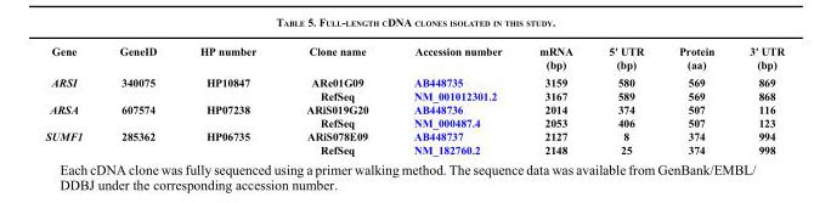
<table><thead><tr><td rowspan="7">Gene ARSI ARSA SUMF1</td><td rowspan="7">GeneID 340075 607574 285362</td><td rowspan="7">HP number HP10847 HP07238 HP06735</td><td rowspan="7">Clone name ARe01G09 RefSeq ARiS019G20 RefSeq ARiS078E09 RefSeq</td><td rowspan="7">Accession number AB448735 NM_001012301.2 AB448736 NM_000487.4 AB448737 NM_182760.2</td><td rowspan="7">mRNA (bp) 3159 3167 2014 2053 2127 2148</td><td rowspan="7">5′ UTR (bp) 580 589 374 406 8 25</td><td rowspan="7">Protein (aa) 569 569 507 507 374 374</td><td rowspan="7">3′ UTR (bp) 869 868 116 123 994 998</td></tr><tr></tr><tr></tr><tr></tr><tr></tr><tr></tr><tr></tr></thead><tbody></tbody></table>